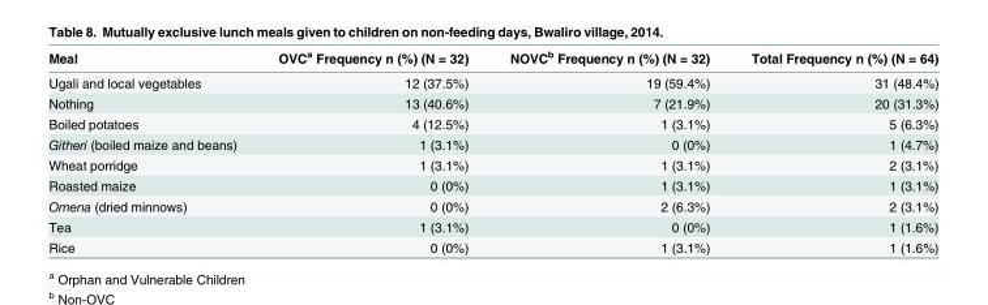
<table><thead><tr><td>Meal</td><td>OVC<sup>a</sup> Frequency n (%) (N = 32)</td><td>NOVC<sup>b</sup> Frequency n (%) (N = 32)</td><td>Total Frequency n (%) (N = 64)</td></tr></thead><tbody><tr><td>Ugali and local vegetables</td><td>12 (37.5%)</td><td>19 (59.4%)</td><td>31 (48.4%)</td></tr><tr><td>Nothing</td><td>13 (40.6%)</td><td>7 (21.9%)</td><td>20 (31.3%)</td></tr><tr><td>Boiled potatoes</td><td>4 (12.5%)</td><td>1 (3.1%)</td><td>5 (6.3%)</td></tr><tr><td>Githeri (boiled maize and beans)</td><td>1 (3.1%)</td><td>0 (0%)</td><td>1 (4.7%)</td></tr><tr><td>Wheat porridge</td><td>1 (3.1%)</td><td>1 (3.1%)</td><td>2 (3.1%)</td></tr><tr><td>Roasted maize</td><td>0 (0%)</td><td>1 (3.1%)</td><td>1 (3.1%)</td></tr><tr><td>Omena (dried minnows)</td><td>0 (0%)</td><td>2 (6.3%)</td><td>2 (3.1%)</td></tr><tr><td>Tea</td><td>1 (3.1%)</td><td>0 (0%)</td><td>1 (1.6%)</td></tr><tr><td>Rice</td><td>0 (0%)</td><td>1 (3.1%)</td><td>1 (1.6%)</td></tr></tbody></table>